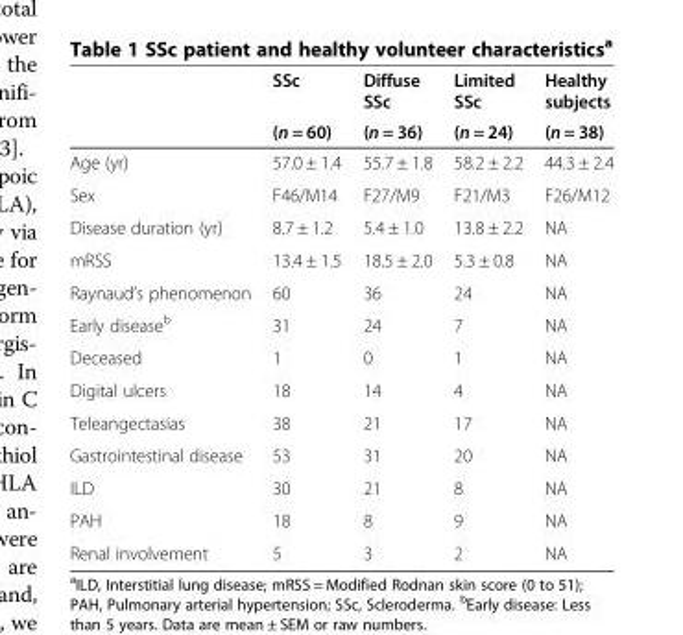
<table><thead><tr><td rowspan="2"></td><td rowspan="2">SSc (n = 60)</td><td rowspan="2">Diffuse SSc (n = 36)</td><td rowspan="2">Limited SSc (n = 24)</td><td rowspan="2">Healthy subjects (n = 38)</td></tr><tr></tr></thead><tbody><tr><td>Age (yr)</td><td>57.0 ± 1.4</td><td>55.7 ± 1.8</td><td>58.2 ± 2.2</td><td>44.3 ± 2.4</td></tr><tr><td>Sex</td><td>F46/M14</td><td>F27/M9</td><td>F21/M3</td><td>F26/M12</td></tr><tr><td>Disease duration (yr)</td><td>8.7 ± 1.2</td><td>5.4 ± 1.0</td><td>13.8 ± 2.2</td><td>NA</td></tr><tr><td>mRSS</td><td>13.4 ± 1.5</td><td>18.5 ± 2.0</td><td>5.3 ± 0.8</td><td>NA</td></tr><tr><td>Raynaud’s phenomenon</td><td>60</td><td>36</td><td>24</td><td>NA</td></tr><tr><td>Early disease<sup>b</sup></td><td>31</td><td>24</td><td>7</td><td>NA</td></tr><tr><td>Deceased</td><td>1</td><td>0</td><td>1</td><td>NA</td></tr><tr><td>Digital ulcers</td><td>18</td><td>14</td><td>4</td><td>NA</td></tr><tr><td>Teleangectasias</td><td>38</td><td>21</td><td>17</td><td>NA</td></tr><tr><td>Gastrointestinal disease</td><td>53</td><td>31</td><td>20</td><td>NA</td></tr><tr><td>ILD</td><td>30</td><td>21</td><td>8</td><td>NA</td></tr><tr><td>PAH</td><td>18</td><td>8</td><td>9</td><td>NA</td></tr><tr><td>Renal involvement</td><td>5</td><td>3</td><td>2</td><td>NA</td></tr></tbody></table>